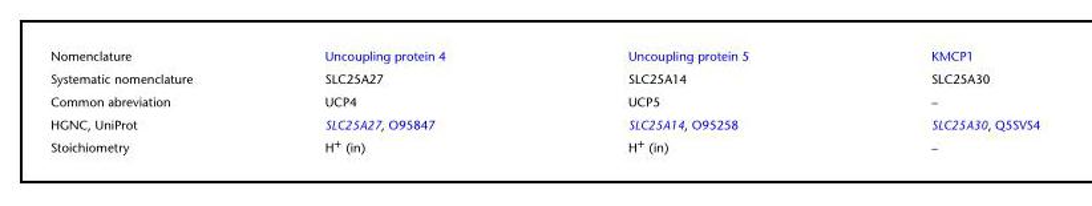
<table><tbody><tr><td>Nomenclature</td><td>Uncoupling protein 4</td><td>Uncoupling protein 5</td><td>KMCP1</td></tr><tr><td>Systematic nomenclature</td><td>SLC25A27</td><td>SLC25A14</td><td>SLC25A30</td></tr><tr><td>Common abreviation</td><td>UCP4</td><td>UCP5</td><td>–</td></tr><tr><td>HGNC, UniProt</td><td>SLC25A27, O95847</td><td>SLC25A14, O95258</td><td>SLC25A30, Q5SVS4</td></tr><tr><td>Stoichiometry</td><td>H<sup>+</sup> (in)</td><td>H<sup>+</sup> (in)</td><td>–</td></tr></tbody></table>